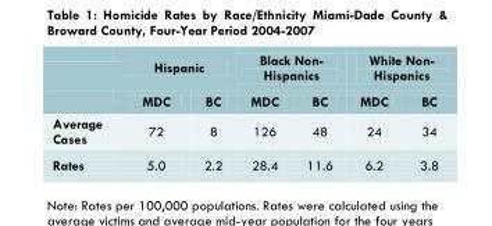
<table><thead><tr><td rowspan="2"></td><td colspan="2">Hispanic</td><td colspan="2">Black Non- Hispanics</td><td colspan="2">White Non- Hispanics</td></tr><tr><td>MDC</td><td>BC</td><td>MDC</td><td>BC</td><td>MDC</td><td>BC</td></tr></thead><tbody><tr><td>Average Cases</td><td>72</td><td>8</td><td>126</td><td>48</td><td>24</td><td>34</td></tr><tr><td>Rates</td><td>5.0</td><td>2.2</td><td>28.4</td><td>11.6</td><td>6.2</td><td>3.8</td></tr></tbody></table>